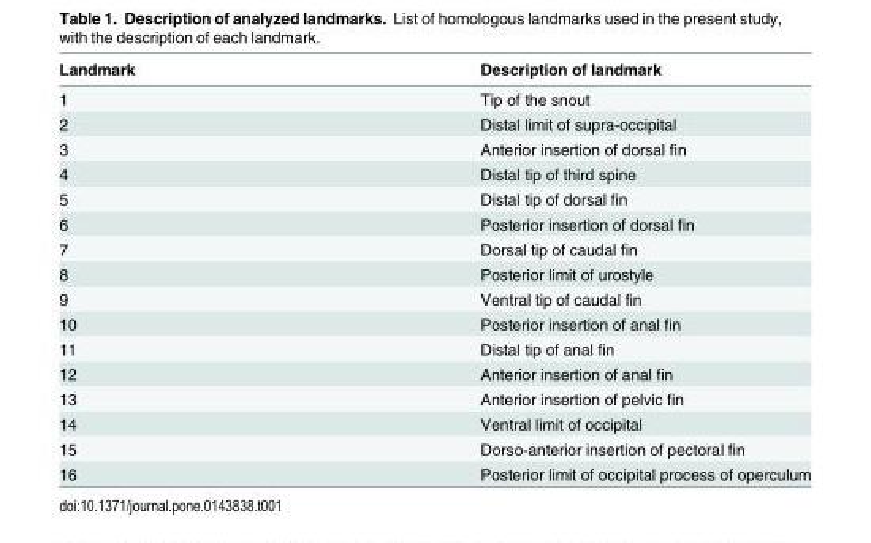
<table><thead><tr><td>Landmark</td><td>Description of landmark</td></tr></thead><tbody><tr><td>1</td><td>Tip of the snout</td></tr><tr><td>2</td><td>Distal limit of supra-occipital</td></tr><tr><td>3</td><td>Anterior insertion of dorsal fin</td></tr><tr><td>4</td><td>Distal tip of third spine</td></tr><tr><td>5</td><td>Distal tip of dorsal fin</td></tr><tr><td>6</td><td>Posterior insertion of dorsal fin</td></tr><tr><td>7</td><td>Dorsal tip of caudal fin</td></tr><tr><td>8</td><td>Posterior limit of urostyle</td></tr><tr><td>9</td><td>Ventral tip of caudal fin</td></tr><tr><td>10</td><td>Posterior insertion of anal fin</td></tr><tr><td>11</td><td>Distal tip of anal fin</td></tr><tr><td>12</td><td>Anterior insertion of anal fin</td></tr><tr><td>13</td><td>Anterior insertion of pelvic fin</td></tr><tr><td>14</td><td>Ventral limit of occipital</td></tr><tr><td>15</td><td>Dorso-anterior insertion of pectoral fin</td></tr><tr><td>16</td><td>Posterior limit of occipital process of operculum</td></tr></tbody></table>